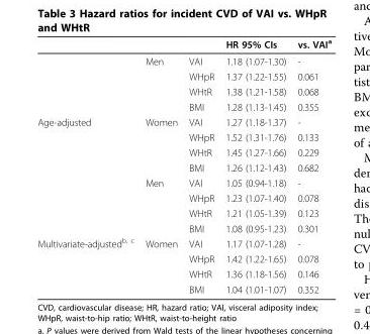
<table><thead><tr><td></td><td></td><td></td><td>HR 95% CIs</td><td>vs. VAI<sup>a</sup></td></tr></thead><tbody><tr><td></td><td>Men</td><td>VAI</td><td>1.18 (1.07-1.30)</td><td>-</td></tr><tr><td></td><td></td><td>WHpR</td><td>1.37 (1.22-1.55)</td><td>0.061</td></tr><tr><td></td><td></td><td>WHtR</td><td>1.38 (1.21-1.58)</td><td>0.068</td></tr><tr><td></td><td></td><td>BMI</td><td>1.28 (1.13-1.45)</td><td>0.355</td></tr><tr><td rowspan="8">Age-adjusted</td><td>Women</td><td>VAI</td><td>1.27 (1.18-1.37)</td><td>-</td></tr><tr><td></td><td>WHpR</td><td>1.52 (1.31-1.76)</td><td>0.133</td></tr><tr><td></td><td>WHtR</td><td>1.45 (1.27-1.66)</td><td>0.229</td></tr><tr><td></td><td>BMI</td><td>1.26 (1.12-1.43)</td><td>0.682</td></tr><tr><td>Men</td><td>VAI</td><td>1.05 (0.94-1.18)</td><td>-</td></tr><tr><td></td><td>WHpR</td><td>1.23 (1.07-1.40)</td><td>0.078</td></tr><tr><td></td><td>WHtR</td><td>1.21 (1.05-1.39)</td><td>0.123</td></tr><tr><td></td><td>BMI</td><td>1.08 (0.95-1.23)</td><td>0.301</td></tr><tr><td rowspan="4">Multivariate-adjusted<sup>b, c</sup></td><td>Women</td><td>VAI</td><td>1.17 (1.07-1.28)</td><td>-</td></tr><tr><td></td><td>WHpR</td><td>1.42 (1.22-1.65)</td><td>0.078</td></tr><tr><td></td><td>WHtR</td><td>1.36 (1.18-1.56)</td><td>0.146</td></tr><tr><td></td><td>BMI</td><td>1.04 (1.01-1.07)</td><td>0.352</td></tr></tbody></table>